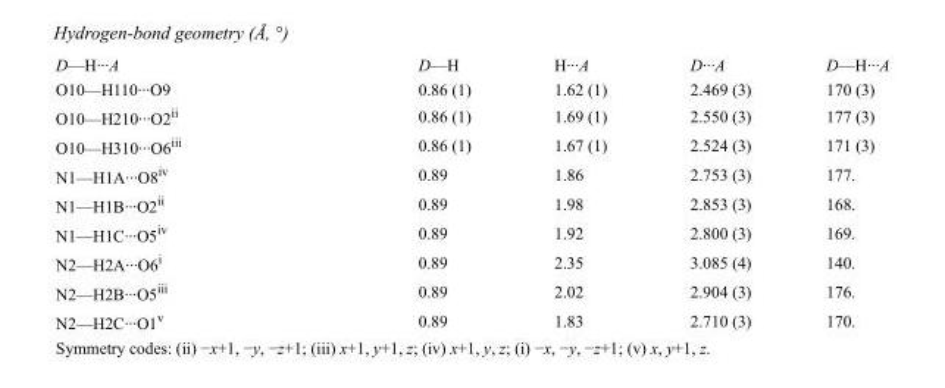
<table><tbody><tr><td>D—H···A</td><td>D—H</td><td>H···A</td><td>D···A</td><td>D—H···A</td></tr><tr><td>O10—H110···O9</td><td>0.86 (1)</td><td>1.62 (1)</td><td>2.469 (3)</td><td>170 (3)</td></tr><tr><td>O10—H210···O2<sup>ii</sup></td><td>0.86 (1)</td><td>1.69 (1)</td><td>2.550 (3)</td><td>177 (3)</td></tr><tr><td>O10—H310···O6<sup>iii</sup></td><td>0.86 (1)</td><td>1.67 (1)</td><td>2.524 (3)</td><td>171 (3)</td></tr><tr><td>N1—H1A···O8<sup>iv</sup></td><td>0.89</td><td>1.86</td><td>2.753 (3)</td><td>177.</td></tr><tr><td>N1—H1B···O2<sup>ii</sup></td><td>0.89</td><td>1.98</td><td>2.853 (3)</td><td>168.</td></tr><tr><td>N1—H1C···O5<sup>iv</sup></td><td>0.89</td><td>1.92</td><td>2.800 (3)</td><td>169.</td></tr><tr><td>N2—H2A···O6<sup>i</sup></td><td>0.89</td><td>2.35</td><td>3.085 (4)</td><td>140.</td></tr><tr><td>N2—H2B···O5<sup>iii</sup></td><td>0.89</td><td>2.02</td><td>2.904 (3)</td><td>176.</td></tr><tr><td>N2—H2C···O1<sup>v</sup></td><td>0.89</td><td>1.83</td><td>2.710 (3)</td><td>170.</td></tr></tbody></table>